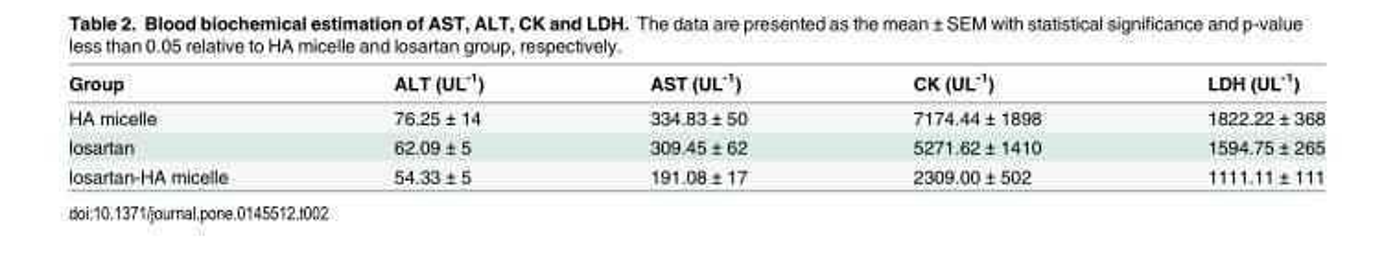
<table><thead><tr><td>Group</td><td>ALT (UL<sup>-1</sup>)</td><td>AST (UL<sup>-1</sup>)</td><td>CK (UL<sup>-1</sup>)</td><td>LDH (UL<sup>-1</sup>)</td></tr></thead><tbody><tr><td>HA micelle</td><td>76.25 ± 14</td><td>334.83 ± 50</td><td>7174.44 ± 1898</td><td>1822.22 ± 368</td></tr><tr><td>losartan</td><td>62.09 ± 5</td><td>309.45 ± 62</td><td>5271.62 ± 1410</td><td>1594.75 ± 265</td></tr><tr><td>losartan-HA micelle</td><td>54.33 ± 5</td><td>191.08 ± 17</td><td>2309.00 ± 502</td><td>1111.11 ± 111</td></tr></tbody></table>